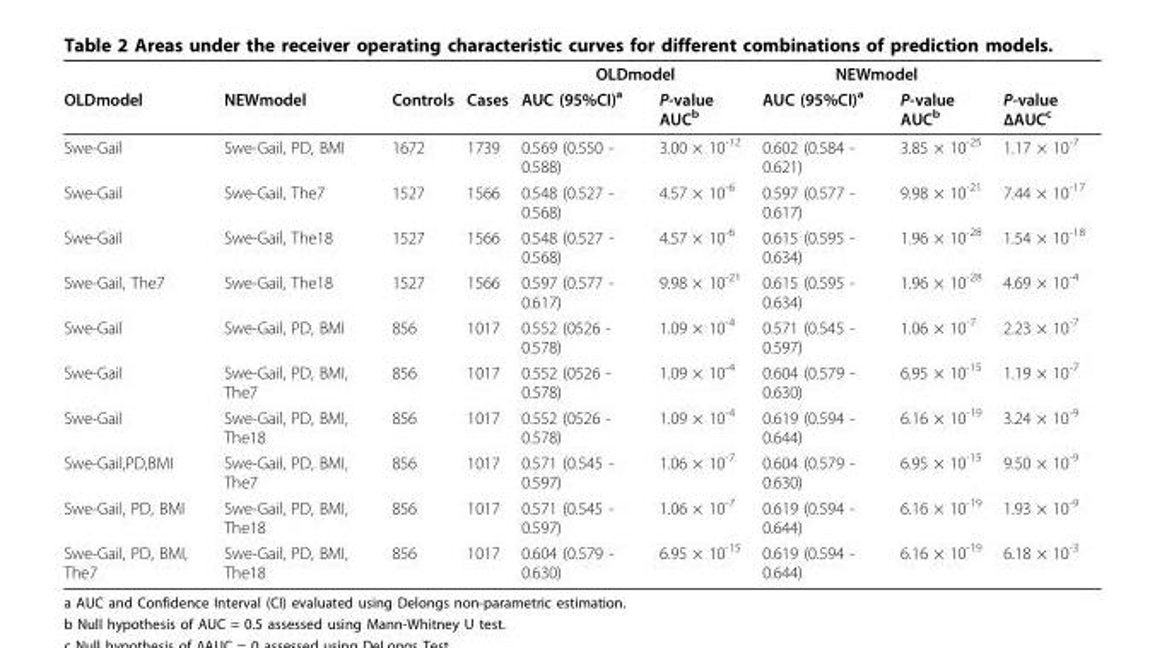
<table><thead><tr><td rowspan="2">OLDmodel</td><td rowspan="2">NEWmodel</td><td rowspan="2">Controls</td><td rowspan="2">Cases</td><td colspan="2">OLDmodel</td><td colspan="2">NEWmodel</td><td rowspan="2">P-value ΔAUC<sup>c</sup></td></tr><tr><td>AUC (95%CI)<sup>a</sup></td><td>P-value AUC<sup>b</sup></td><td>AUC (95%CI)<sup>a</sup></td><td>P-value AUC<sup>b</sup></td></tr></thead><tbody><tr><td>Swe-Gail</td><td>Swe-Gail, PD, BMI</td><td>1672</td><td>1739</td><td>0.569 (0.550 - 0.588)</td><td>3.00 × 10<sup>-12</sup></td><td>0.602 (0.584 - 0.621)</td><td>3.85 × 10<sup>-25</sup></td><td>1.17 × 10<sup>-7</sup></td></tr><tr><td>Swe-Gail</td><td>Swe-Gail, The7</td><td>1527</td><td>1566</td><td>0.548 (0.527 - 0.568)</td><td>4.57 × 10<sup>-6</sup></td><td>0.597 (0.577 - 0.617)</td><td>9.98 × 10<sup>-21</sup></td><td>7.44 × 10<sup>-17</sup></td></tr><tr><td>Swe-Gail</td><td>Swe-Gail, The18</td><td>1527</td><td>1566</td><td>0.548 (0.527 - 0.568)</td><td>4.57 × 10<sup>-6</sup></td><td>0.615 (0.595 - 0.634)</td><td>1.96 × 10<sup>-28</sup></td><td>1.54 × 10<sup>-18</sup></td></tr><tr><td>Swe-Gail, The7</td><td>Swe-Gail, The18</td><td>1527</td><td>1566</td><td>0.597 (0.577 - 0.617)</td><td>9.98 × 10<sup>-21</sup></td><td>0.615 (0.595 - 0.634)</td><td>1.96 × 10<sup>-28</sup></td><td>4.69 × 10<sup>-4</sup></td></tr><tr><td>Swe-Gail</td><td>Swe-Gail, PD, BMI</td><td>856</td><td>1017</td><td>0.552 (0526 - 0.578)</td><td>1.09 × 10<sup>-4</sup></td><td>0.571 (0.545 - 0.597)</td><td>1.06 × 10<sup>-7</sup></td><td>2.23 × 10<sup>-7</sup></td></tr><tr><td>Swe-Gail</td><td>Swe-Gail, PD, BMI, The7</td><td>856</td><td>1017</td><td>0.552 (0526 - 0.578)</td><td>1.09 × 10<sup>-4</sup></td><td>0.604 (0.579 - 0.630)</td><td>6.95 × 10<sup>-15</sup></td><td>1.19 × 10<sup>-7</sup></td></tr><tr><td>Swe-Gail</td><td>Swe-Gail, PD, BMI, The18</td><td>856</td><td>1017</td><td>0.552 (0526 - 0.578)</td><td>1.09 × 10<sup>-4</sup></td><td>0.619 (0.594 - 0.644)</td><td>6.16 × 10<sup>-19</sup></td><td>3.24 × 10<sup>-9</sup></td></tr><tr><td>Swe-Gail,PD,BMI</td><td>Swe-Gail, PD, BMI, The7</td><td>856</td><td>1017</td><td>0.571 (0.545 - 0.597)</td><td>1.06 × 10<sup>-7</sup></td><td>0.604 (0.579 - 0.630)</td><td>6.95 × 10<sup>-15</sup></td><td>9.50 × 10<sup>-9</sup></td></tr><tr><td>Swe-Gail, PD, BMI</td><td>Swe-Gail, PD, BMI, The18</td><td>856</td><td>1017</td><td>0.571 (0.545 - 0.597)</td><td>1.06 × 10<sup>-7</sup></td><td>0.619 (0.594 - 0.644)</td><td>6.16 × 10<sup>-19</sup></td><td>1.93 × 10<sup>-9</sup></td></tr><tr><td>Swe-Gail, PD, BMI, The7</td><td>Swe-Gail, PD, BMI, The18</td><td>856</td><td>1017</td><td>0.604 (0.579 - 0.630)</td><td>6.95 × 10<sup>-15</sup></td><td>0.619 (0.594 - 0.644)</td><td>6.16 × 10<sup>-19</sup></td><td>6.18 × 10<sup>-3</sup></td></tr></tbody></table>